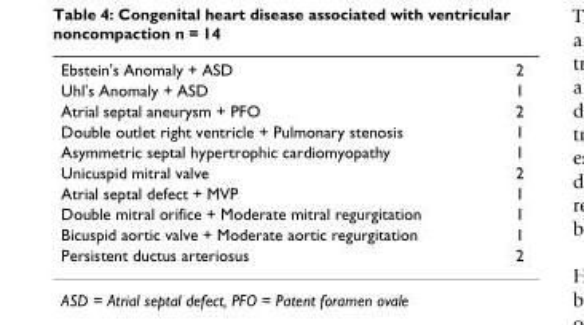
<table><tbody><tr><td>Ebstein&#x27;s Anomaly + ASD</td><td>2</td></tr><tr><td>Uhl&#x27;s Anomaly + ASD</td><td>1</td></tr><tr><td>Atrial septal aneurysm + PFO</td><td>2</td></tr><tr><td>Double outlet right ventricle + Pulmonary stenosis</td><td>1</td></tr><tr><td>Asymmetric septal hypertrophic cardiomyopathy</td><td>1</td></tr><tr><td>Unicuspid mitral valve</td><td>2</td></tr><tr><td>Atrial septal defect + MVP</td><td>1</td></tr><tr><td>Double mitral orifice + Moderate mitral regurgitation</td><td>1</td></tr><tr><td>Bicuspid aortic valve + Moderate aortic regurgitation</td><td>1</td></tr><tr><td>Persistent ductus arteriosus</td><td>2</td></tr></tbody></table>